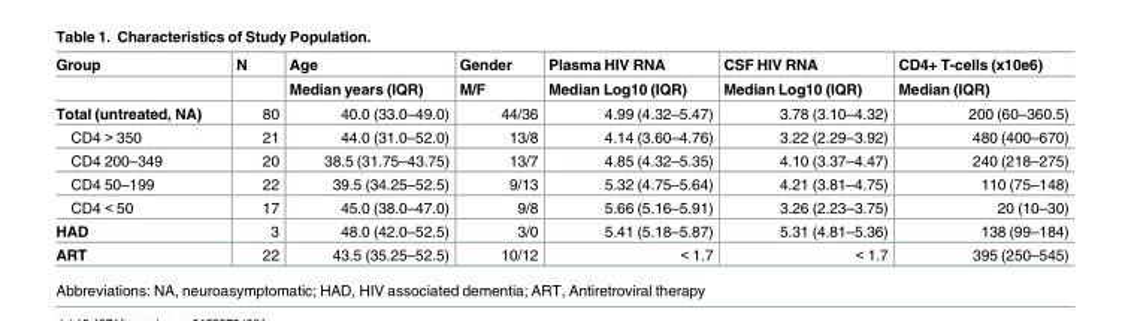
<table><thead><tr><td rowspan="2">Group</td><td rowspan="2">N</td><td rowspan="2">Age Median years (IQR)</td><td rowspan="2">Gender M/F</td><td rowspan="2">Plasma HIV RNA Median Log10 (IQR)</td><td rowspan="2">CSF HIV RNA Median Log10 (IQR)</td><td rowspan="2">CD4+ T-cells (x10e6) Median (IQR)</td></tr><tr></tr></thead><tbody><tr><td>Total (untreated, NA)</td><td>80</td><td>40.0 (33.0–49.0)</td><td>44/36</td><td>4.99 (4.32–5.47)</td><td>3.78 (3.10–4.32)</td><td>200 (60–360.5)</td></tr><tr><td>CD4 &gt; 350</td><td>21</td><td>44.0 (31.0–52.0)</td><td>13/8</td><td>4.14 (3.60–4.76)</td><td>3.22 (2.29–3.92)</td><td>480 (400–670)</td></tr><tr><td>CD4 200–349</td><td>20</td><td>38.5 (31.75–43.75)</td><td>13/7</td><td>4.85 (4.32–5.35)</td><td>4.10 (3.37–4.47)</td><td>240 (218–275)</td></tr><tr><td>CD4 50–199</td><td>22</td><td>39.5 (34.25–52.5)</td><td>9/13</td><td>5.32 (4.75–5.64)</td><td>4.21 (3.81–4.75)</td><td>110 (75–148)</td></tr><tr><td>CD4 &lt; 50</td><td>17</td><td>45.0 (38.0–47.0)</td><td>9/8</td><td>5.66 (5.16–5.91)</td><td>3.26 (2.23–3.75)</td><td>20 (10–30)</td></tr><tr><td>HAD</td><td>3</td><td>48.0 (42.0–52.5)</td><td>3/0</td><td>5.41 (5.18–5.87)</td><td>5.31 (4.81–5.36)</td><td>138 (99–184)</td></tr><tr><td>ART</td><td>22</td><td>43.5 (35.25–52.5)</td><td>10/12</td><td>&lt; 1.7</td><td>&lt; 1.7</td><td>395 (250–545)</td></tr></tbody></table>